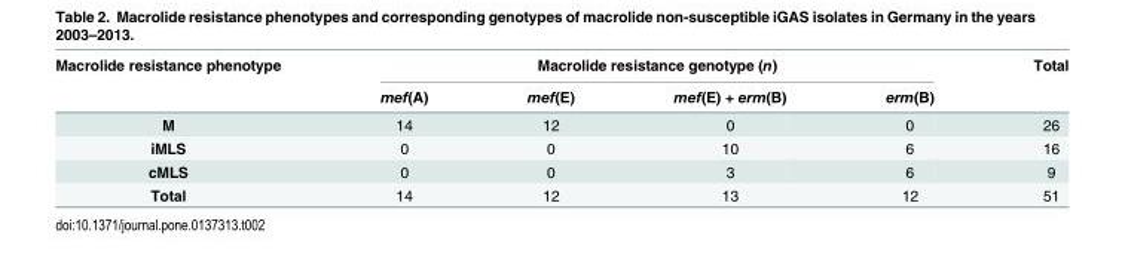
<table><thead><tr><td rowspan="2">Macrolide resistance phenotype</td><td colspan="4">Macrolide resistance genotype (n)</td><td rowspan="2">Total</td></tr><tr><td>mef(A)</td><td>mef(E)</td><td>mef(E) + erm(B)</td><td>erm(B)</td></tr></thead><tbody><tr><td>M</td><td>14</td><td>12</td><td>0</td><td>0</td><td>26</td></tr><tr><td>iMLS</td><td>0</td><td>0</td><td>10</td><td>6</td><td>16</td></tr><tr><td>cMLS</td><td>0</td><td>0</td><td>3</td><td>6</td><td>9</td></tr><tr><td>Total</td><td>14</td><td>12</td><td>13</td><td>12</td><td>51</td></tr></tbody></table>